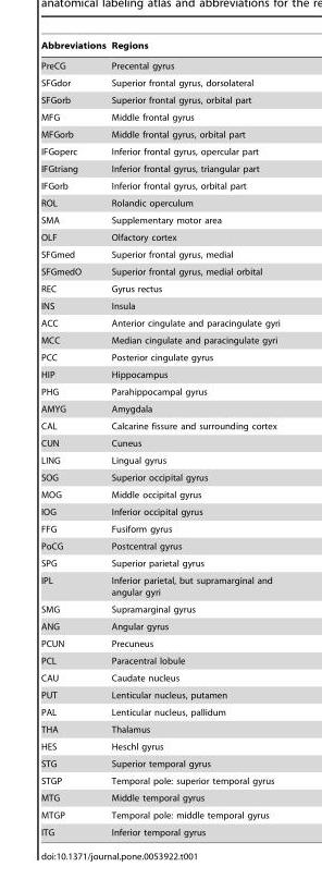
<table><thead><tr><td>Abbreviations</td><td>Regions</td></tr></thead><tbody><tr><td>PreCG</td><td>Precental gyrus</td></tr><tr><td>SFGdor</td><td>Superior frontal gyrus, dorsolateral</td></tr><tr><td>SFGorb</td><td>Superior frontal gyrus, orbital part</td></tr><tr><td>MFG</td><td>Middle frontal gyrus</td></tr><tr><td>MFGorb</td><td>Middle frontal gyrus, orbital part</td></tr><tr><td>IFGoperc</td><td>Inferior frontal gyrus, opercular part</td></tr><tr><td>IFGtriang</td><td>Inferior frontal gyrus, triangular part</td></tr><tr><td>IFGorb</td><td>Inferior frontal gyrus, orbital part</td></tr><tr><td>ROL</td><td>Rolandic operculum</td></tr><tr><td>SMA</td><td>Supplementary motor area</td></tr><tr><td>OLF</td><td>Olfactory cortex</td></tr><tr><td>SFGmed</td><td>Superior frontal gyrus, medial</td></tr><tr><td>SFGmedO</td><td>Superior frontal gyrus, medial orbital</td></tr><tr><td>REC</td><td>Gyrus rectus</td></tr><tr><td>INS</td><td>Insula</td></tr><tr><td>ACC</td><td>Anterior cingulate and paracingulate gyri</td></tr><tr><td>MCC</td><td>Median cingulate and paracingulate gyri</td></tr><tr><td>PCC</td><td>Posterior cingulate gyrus</td></tr><tr><td>HIP</td><td>Hippocampus</td></tr><tr><td>PHG</td><td>Parahippocampal gyrus</td></tr><tr><td>AMYG</td><td>Amygdala</td></tr><tr><td>CAL</td><td>Calcarine fissure and surrounding cortex</td></tr><tr><td>CUN</td><td>Cuneus</td></tr><tr><td>LING</td><td>Lingual gyrus</td></tr><tr><td>SOG</td><td>Superior occipital gyrus</td></tr><tr><td>MOG</td><td>Middle occipital gyrus</td></tr><tr><td>IOG</td><td>Inferior occipital gyrus</td></tr><tr><td>FFG</td><td>Fusiform gyrus</td></tr><tr><td>PoCG</td><td>Postcentral gyrus</td></tr><tr><td>SPG</td><td>Superior parietal gyrus</td></tr><tr><td>IPL</td><td>Inferior parietal, but supramarginal and angular gyri</td></tr><tr><td>SMG</td><td>Supramarginal gyrus</td></tr><tr><td>ANG</td><td>Angular gyrus</td></tr><tr><td>PCUN</td><td>Precuneus</td></tr><tr><td>PCL</td><td>Paracentral lobule</td></tr><tr><td>CAU</td><td>Caudate nucleus</td></tr><tr><td>PUT</td><td>Lenticular nucleus, putamen</td></tr><tr><td>PAL</td><td>Lenticular nucleus, pallidum</td></tr><tr><td>THA</td><td>Thalamus</td></tr><tr><td>HES</td><td>Heschl gyrus</td></tr><tr><td>STG</td><td>Superior temporal gyrus</td></tr><tr><td>STGP</td><td>Temporal pole: superior temporal gyrus</td></tr><tr><td>MTG</td><td>Middle temporal gyrus</td></tr><tr><td>MTGP</td><td>Temporal pole: middle temporal gyrus</td></tr><tr><td>ITG</td><td>Inferior temporal gyrus</td></tr></tbody></table>